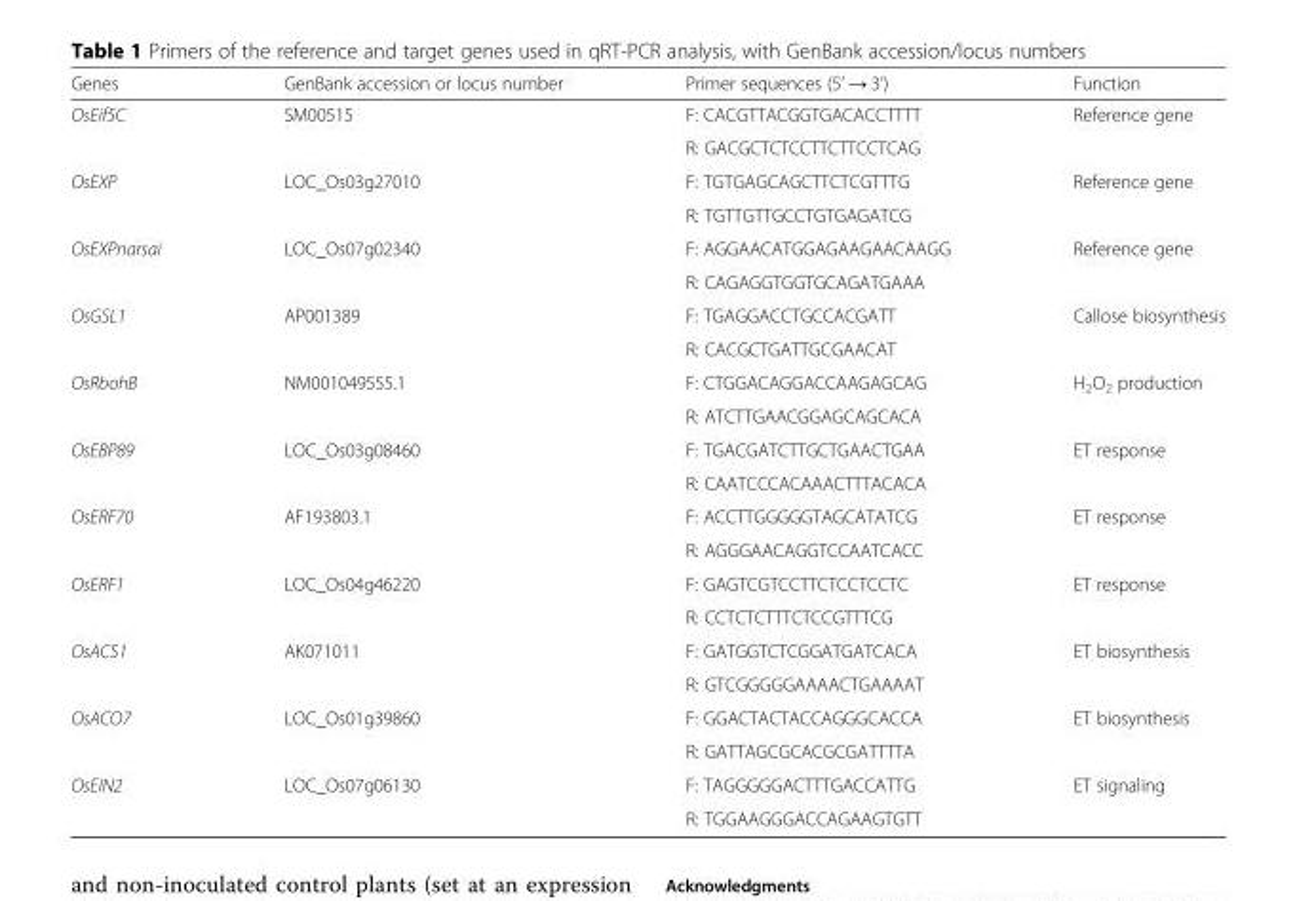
<table><thead><tr><td>Genes</td><td>GenBank accession or locus number</td><td>Primer sequences (5’ → 3’)</td><td>Function</td></tr></thead><tbody><tr><td rowspan="2">OsEif5C</td><td rowspan="2">SM00515</td><td>F: CACGTTACGGTGACACCTTTT</td><td rowspan="2">Reference gene</td></tr><tr><td>R: GACGCTCTCCTTCTTCCTCAG</td></tr><tr><td rowspan="2">OsEXP</td><td rowspan="2">LOC_Os03g27010</td><td>F: TGTGAGCAGCTTCTCGTTTG</td><td rowspan="2">Reference gene</td></tr><tr><td>R: TGTTGTTGCCTGTGAGATCG</td></tr><tr><td rowspan="2">OsEXPnarsai</td><td rowspan="2">LOC_Os07g02340</td><td>F: AGGAACATGGAGAAGAACAAGG</td><td rowspan="2">Reference gene</td></tr><tr><td>R: CAGAGGTGGTGCAGATGAAA</td></tr><tr><td rowspan="2">OsGSL1</td><td rowspan="2">AP001389</td><td>F: TGAGGACCTGCCACGATT</td><td rowspan="2">Callose biosynthesis</td></tr><tr><td>R: CACGCTGATTGCGAACAT</td></tr><tr><td rowspan="2">OsRbohB</td><td rowspan="2">NM001049555.1</td><td>F: CTGGACAGGACCAAGAGCAG</td><td rowspan="2">H<sub>2</sub>O<sub>2</sub> production</td></tr><tr><td>R: ATCTTGAACGGAGCAGCACA</td></tr><tr><td rowspan="2">OsEBP89</td><td rowspan="2">LOC_Os03g08460</td><td>F: TGACGATCTTGCTGAACTGAA</td><td rowspan="2">ET response</td></tr><tr><td>R: CAATCCCACAAACTTTACACA</td></tr><tr><td rowspan="2">OsERF70</td><td rowspan="2">AF193803.1</td><td>F: ACCTTGGGGGTAGCATATCG</td><td rowspan="2">ET response</td></tr><tr><td>R: AGGGAACAGGTCCAATCACC</td></tr><tr><td rowspan="2">OsERF1</td><td rowspan="2">LOC_Os04g46220</td><td>F: GAGTCGTCCTTCTCCTCCTC</td><td rowspan="2">ET response</td></tr><tr><td>R: CCTCTCTTTCTCCGTTTCG</td></tr><tr><td rowspan="2">OsACS1</td><td rowspan="2">AK071011</td><td>F: GATGGTCTCGGATGATCACA</td><td rowspan="2">ET biosynthesis</td></tr><tr><td>R: GTCGGGGGAAAACTGAAAAT</td></tr><tr><td rowspan="2">OsACO7</td><td rowspan="2">LOC_Os01g39860</td><td>F: GGACTACTACCAGGGCACCA</td><td rowspan="2">ET biosynthesis</td></tr><tr><td>R: GATTAGCGCACGCGATTTTA</td></tr><tr><td rowspan="2">OsEIN2</td><td rowspan="2">LOC_Os07g06130</td><td>F: TAGGGGGACTTTGACCATTG</td><td rowspan="2">ET signaling</td></tr><tr><td>R: TGGAAGGGACCAGAAGTGTT</td></tr></tbody></table>